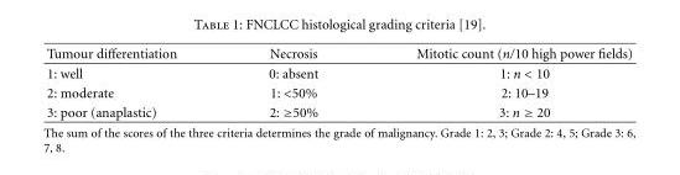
<table><thead><tr><td>Tumour differentiation</td><td>Necrosis</td><td>Mitotic count (n/10 high power fields)</td></tr></thead><tbody><tr><td>1: well</td><td>0: absent</td><td>1: n &lt; 10</td></tr><tr><td>2: moderate</td><td>1: &lt;50%</td><td>2: 10–19</td></tr><tr><td>3: poor (anaplastic)</td><td>2: ≥50%</td><td>3: n ≥ 20</td></tr></tbody></table>